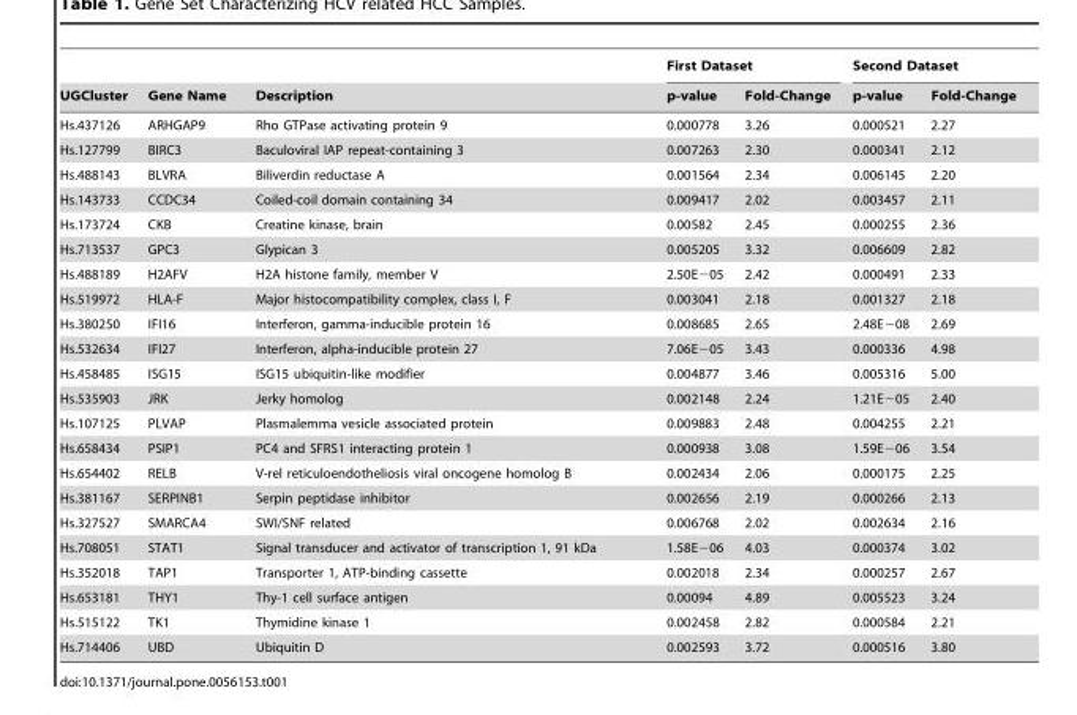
<table><thead><tr><td rowspan="2">UGCluster</td><td rowspan="2">Gene Name</td><td rowspan="2">Description</td><td colspan="2">First Dataset</td><td colspan="2">Second Dataset</td></tr><tr><td>p-value</td><td>Fold-Change</td><td>p-value</td><td>Fold-Change</td></tr></thead><tbody><tr><td>Hs.437126</td><td>ARHGAP9</td><td>Rho GTPase activating protein 9</td><td>0.000778</td><td>3.26</td><td>0.000521</td><td>2.27</td></tr><tr><td>Hs.127799</td><td>BIRC3</td><td>Baculoviral IAP repeat-containing 3</td><td>0.007263</td><td>2.30</td><td>0.000341</td><td>2.12</td></tr><tr><td>Hs.488143</td><td>BLVRA</td><td>Biliverdin reductase A</td><td>0.001564</td><td>2.34</td><td>0.006145</td><td>2.20</td></tr><tr><td>Hs.143733</td><td>CCDC34</td><td>Coiled-coil domain containing 34</td><td>0.009417</td><td>2.02</td><td>0.003457</td><td>2.11</td></tr><tr><td>Hs.173724</td><td>CKB</td><td>Creatine kinase, brain</td><td>0.00582</td><td>2.45</td><td>0.000255</td><td>2.36</td></tr><tr><td>Hs.713537</td><td>GPC3</td><td>Glypican 3</td><td>0.005205</td><td>3.32</td><td>0.006609</td><td>2.82</td></tr><tr><td>Hs.488189</td><td>H2AFV</td><td>H2A histone family, member V</td><td>2.50E−05</td><td>2.42</td><td>0.000491</td><td>2.33</td></tr><tr><td>Hs.519972</td><td>HLA-F</td><td>Major histocompatibility complex, class I, F</td><td>0.003041</td><td>2.18</td><td>0.001327</td><td>2.18</td></tr><tr><td>Hs.380250</td><td>IFI16</td><td>Interferon, gamma-inducible protein 16</td><td>0.008685</td><td>2.65</td><td>2.48E−08</td><td>2.69</td></tr><tr><td>Hs.532634</td><td>IFI27</td><td>Interferon, alpha-inducible protein 27</td><td>7.06E−05</td><td>3.43</td><td>0.000336</td><td>4.98</td></tr><tr><td>Hs.458485</td><td>ISG15</td><td>ISG15 ubiquitin-like modifier</td><td>0.004877</td><td>3.46</td><td>0.005316</td><td>5.00</td></tr><tr><td>Hs.535903</td><td>JRK</td><td>Jerky homolog</td><td>0.002148</td><td>2.24</td><td>1.21E−05</td><td>2.40</td></tr><tr><td>Hs.107125</td><td>PLVAP</td><td>Plasmalemma vesicle associated protein</td><td>0.009883</td><td>2.48</td><td>0.004255</td><td>2.21</td></tr><tr><td>Hs.658434</td><td>PSIP1</td><td>PC4 and SFRS1 interacting protein 1</td><td>0.000938</td><td>3.08</td><td>1.59E−06</td><td>3.54</td></tr><tr><td>Hs.654402</td><td>RELB</td><td>V-rel reticuloendotheliosis viral oncogene homolog B</td><td>0.002434</td><td>2.06</td><td>0.000175</td><td>2.25</td></tr><tr><td>Hs.381167</td><td>SERPINB1</td><td>Serpin peptidase inhibitor</td><td>0.002656</td><td>2.19</td><td>0.000266</td><td>2.13</td></tr><tr><td>Hs.327527</td><td>SMARCA4</td><td>SWI/SNF related</td><td>0.006768</td><td>2.02</td><td>0.002634</td><td>2.16</td></tr><tr><td>Hs.708051</td><td>STAT1</td><td>Signal transducer and activator of transcription 1, 91 kDa</td><td>1.58E−06</td><td>4.03</td><td>0.000374</td><td>3.02</td></tr><tr><td>Hs.352018</td><td>TAP1</td><td>Transporter 1, ATP-binding cassette</td><td>0.002018</td><td>2.34</td><td>0.000257</td><td>2.67</td></tr><tr><td>Hs.653181</td><td>THY1</td><td>Thy-1 cell surface antigen</td><td>0.00094</td><td>4.89</td><td>0.005523</td><td>3.24</td></tr><tr><td>Hs.515122</td><td>TK1</td><td>Thymidine kinase 1</td><td>0.002458</td><td>2.82</td><td>0.000584</td><td>2.21</td></tr><tr><td>Hs.714406</td><td>UBD</td><td>Ubiquitin D</td><td>0.002593</td><td>3.72</td><td>0.000516</td><td>3.80</td></tr></tbody></table>